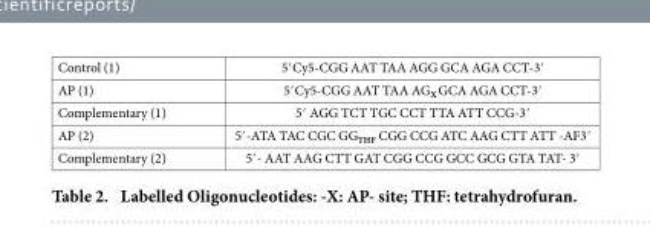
<table><tbody><tr><td>Control (1)</td><td>5′ Cy5-CGG AAT TAA AGG GCA AGA CCT-3′</td></tr><tr><td>AP (1)</td><td>5′ Cy5-CGG AAT TAA AG<sub>X</sub> GCA AGA CCT-3′</td></tr><tr><td>Complementary (1)</td><td>5′ AGG TCT TGC CCT TTA ATT CCG-3′</td></tr><tr><td>AP (2)</td><td>5′ -ATA TAC CGC GG<sub>THF</sub> CGG CCG ATC AAG CTT ATT -AF3′</td></tr><tr><td>Complementary (2)</td><td>5′ - AAT AAG CTT GAT CGG CCG GCC GCG GTA TAT- 3′</td></tr></tbody></table>